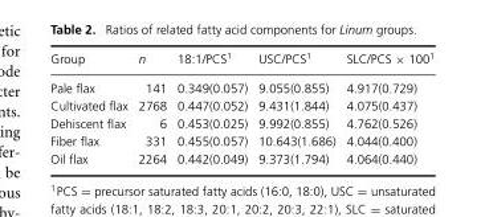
<table><thead><tr><td>Group</td><td>n</td><td>18:1/PCS<sup>1</sup></td><td>USC/PCS<sup>1</sup></td><td>SLC/PCS × 100<sup>1</sup></td></tr></thead><tbody><tr><td>Pale flax</td><td>141</td><td>0.349(0.057)</td><td>9.055(0.855)</td><td>4.917(0.729)</td></tr><tr><td>Cultivated flax</td><td>2768</td><td>0.447(0.052)</td><td>9.431(1.844)</td><td>4.075(0.437)</td></tr><tr><td>Dehiscent flax</td><td>6</td><td>0.453(0.025)</td><td>9.992(0.855)</td><td>4.762(0.526)</td></tr><tr><td>Fiber flax</td><td>331</td><td>0.455(0.057)</td><td>10.643(1.686)</td><td>4.044(0.400)</td></tr><tr><td>Oil flax</td><td>2264</td><td>0.442(0.049)</td><td>9.373(1.794)</td><td>4.064(0.440)</td></tr></tbody></table>